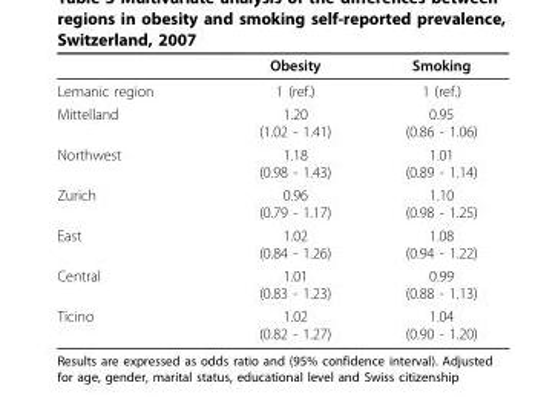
<table><thead><tr><td></td><td>Obesity</td><td>Smoking</td></tr></thead><tbody><tr><td>Lemanic region</td><td>1 (ref.)</td><td>1 (ref.)</td></tr><tr><td>Mittelland</td><td>1.20 (1.02 - 1.41)</td><td>0.95 (0.86 - 1.06)</td></tr><tr><td>Northwest</td><td>1.18 (0.98 - 1.43)</td><td>1.01 (0.89 - 1.14)</td></tr><tr><td>Zurich</td><td>0.96 (0.79 - 1.17)</td><td>1.10 (0.98 - 1.25)</td></tr><tr><td>East</td><td>1.02 (0.84 - 1.26)</td><td>1.08 (0.94 - 1.22)</td></tr><tr><td>Central</td><td>1.01 (0.83 - 1.23)</td><td>0.99 (0.88 - 1.13)</td></tr><tr><td>Ticino</td><td>1.02 (0.82 - 1.27)</td><td>1.04 (0.90 - 1.20)</td></tr></tbody></table>